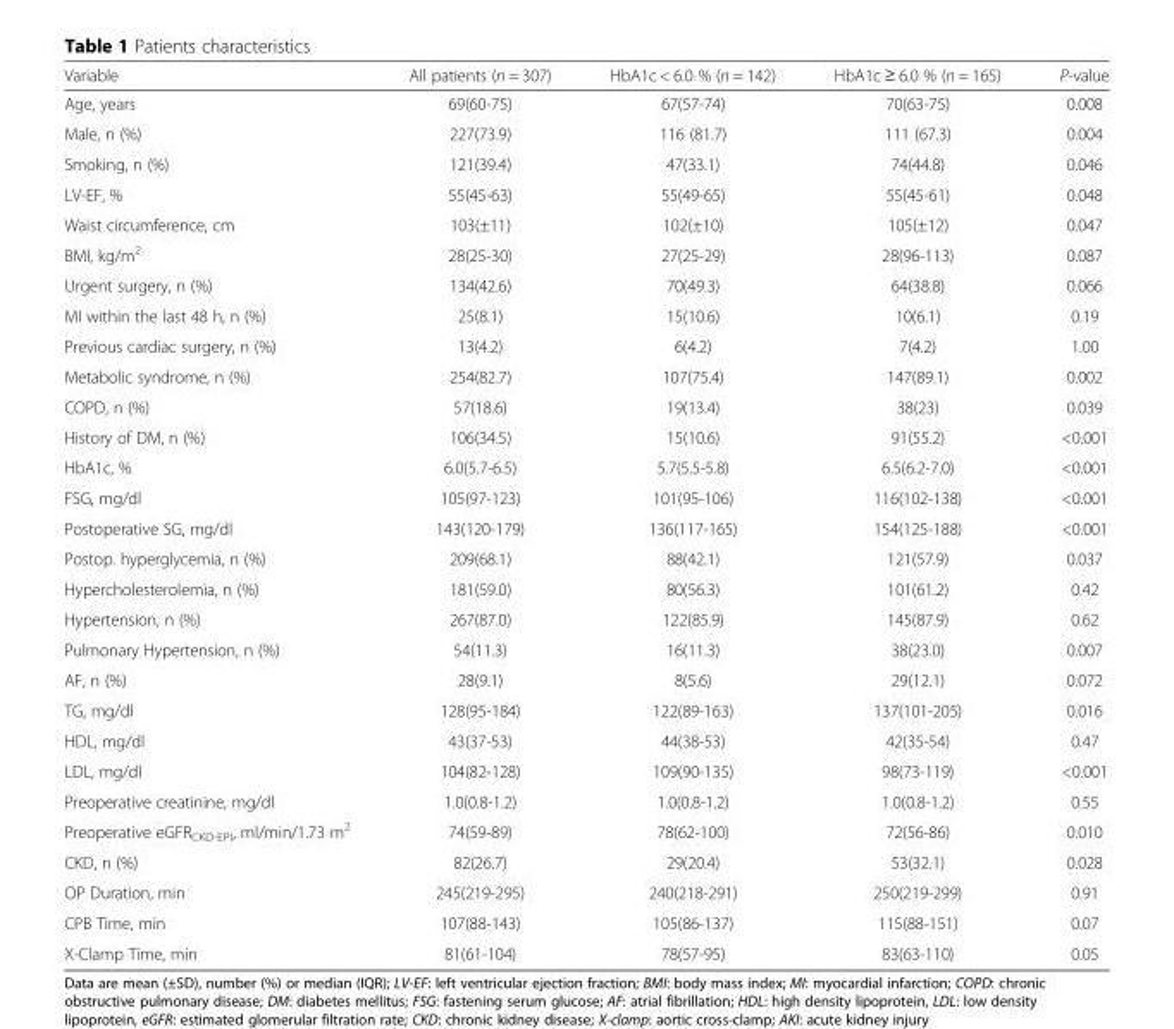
<table><thead><tr><td>Variable</td><td>All patients (n = 307)</td><td>HbA1c &lt; 6.0 % (n = 142)</td><td>HbA1c ≥ 6.0 % (n = 165)</td><td>P-value</td></tr></thead><tbody><tr><td>Age, years</td><td>69(60-75)</td><td>67(57-74)</td><td>70(63-75)</td><td>0.008</td></tr><tr><td>Male, n (%)</td><td>227(73.9)</td><td>116 (81.7)</td><td>111 (67.3)</td><td>0.004</td></tr><tr><td>Smoking, n (%)</td><td>121(39.4)</td><td>47(33.1)</td><td>74(44.8)</td><td>0.046</td></tr><tr><td>LV-EF, %</td><td>55(45-63)</td><td>55(49-65)</td><td>55(45-61)</td><td>0.048</td></tr><tr><td>Waist circumference, cm</td><td>103(±11)</td><td>102(±10)</td><td>105(±12)</td><td>0.047</td></tr><tr><td>BMI, kg/m<sup>2</sup></td><td>28(25-30)</td><td>27(25-29)</td><td>28(96-113)</td><td>0.087</td></tr><tr><td>Urgent surgery, n (%)</td><td>134(42.6)</td><td>70(49.3)</td><td>64(38.8)</td><td>0.066</td></tr><tr><td>MI within the last 48 h, n (%)</td><td>25(8.1)</td><td>15(10.6)</td><td>10(6.1)</td><td>0.19</td></tr><tr><td>Previous cardiac surgery, n (%)</td><td>13(4.2)</td><td>6(4.2)</td><td>7(4.2)</td><td>1.00</td></tr><tr><td>Metabolic syndrome, n (%)</td><td>254(82.7)</td><td>107(75.4)</td><td>147(89.1)</td><td>0.002</td></tr><tr><td>COPD, n (%)</td><td>57(18.6)</td><td>19(13.4)</td><td>38(23)</td><td>0.039</td></tr><tr><td>History of DM, n (%)</td><td>106(34.5)</td><td>15(10.6)</td><td>91(55.2)</td><td>&lt;0.001</td></tr><tr><td>HbA1c, %</td><td>6.0(5.7-6.5)</td><td>5.7(5.5-5.8)</td><td>6.5(6.2-7.0)</td><td>&lt;0.001</td></tr><tr><td>FSG, mg/dl</td><td>105(97-123)</td><td>101(95-106)</td><td>116(102-138)</td><td>&lt;0.001</td></tr><tr><td>Postoperative SG, mg/dl</td><td>143(120-179)</td><td>136(117-165)</td><td>154(125-188)</td><td>&lt;0.001</td></tr><tr><td>Postop. hyperglycemia, n (%)</td><td>209(68.1)</td><td>88(42.1)</td><td>121(57.9)</td><td>0.037</td></tr><tr><td>Hypercholesterolemia, n (%)</td><td>181(59.0)</td><td>80(56.3)</td><td>101(61.2)</td><td>0.42</td></tr><tr><td>Hypertension, n (%)</td><td>267(87.0)</td><td>122(85.9)</td><td>145(87.9)</td><td>0.62</td></tr><tr><td>Pulmonary Hypertension, n (%)</td><td>54(11.3)</td><td>16(11.3)</td><td>38(23.0)</td><td>0.007</td></tr><tr><td>AF, n (%)</td><td>28(9.1)</td><td>8(5.6)</td><td>29(12.1)</td><td>0.072</td></tr><tr><td>TG, mg/dl</td><td>128(95-184)</td><td>122(89-163)</td><td>137(101-205)</td><td>0.016</td></tr><tr><td>HDL, mg/dl</td><td>43(37-53)</td><td>44(38-53)</td><td>42(35-54)</td><td>0.47</td></tr><tr><td>LDL, mg/dl</td><td>104(82-128)</td><td>109(90-135)</td><td>98(73-119)</td><td>&lt;0.001</td></tr><tr><td>Preoperative creatinine, mg/dl</td><td>1.0(0.8-1.2)</td><td>1.0(0.8-1.2)</td><td>1.0(0.8-1.2)</td><td>0.55</td></tr><tr><td>Preoperative eGFR<sub>CKD-EPI</sub>, ml/min/1.73 m<sup>2</sup></td><td>74(59-89)</td><td>78(62-100)</td><td>72(56-86)</td><td>0.010</td></tr><tr><td>CKD, n (%)</td><td>82(26.7)</td><td>29(20.4)</td><td>53(32.1)</td><td>0.028</td></tr><tr><td>OP Duration, min</td><td>245(219-295)</td><td>240(218-291)</td><td>250(219-299)</td><td>0.91</td></tr><tr><td>CPB Time, min</td><td>107(88-143)</td><td>105(86-137)</td><td>115(88-151)</td><td>0.07</td></tr><tr><td>X-Clamp Time, min</td><td>81(61-104)</td><td>78(57-95)</td><td>83(63-110)</td><td>0.05</td></tr></tbody></table>